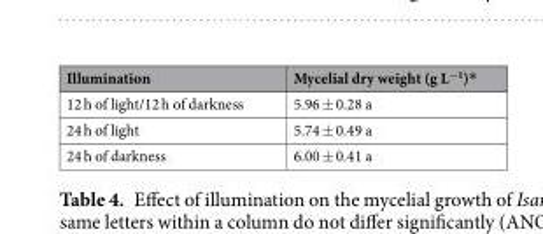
<table><thead><tr><td>Illumination</td><td>Mycelial dry weight (g L<sup>−1</sup>)*</td></tr></thead><tbody><tr><td>12 h of light/12 h of darkness</td><td>5.96 ± 0.28 a</td></tr><tr><td>24 h of light</td><td>5.74 ± 0.49 a</td></tr><tr><td>24 h of darkness</td><td>6.00 ± 0.41 a</td></tr></tbody></table>